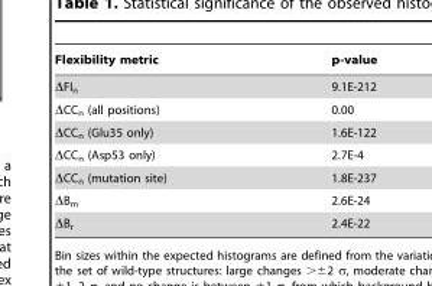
<table><thead><tr><td>Flexibility metric</td><td>p-value</td></tr></thead><tbody><tr><td>ΔFI<sub>n</sub></td><td>9.1E-212</td></tr><tr><td>ΔCC<sub>n</sub> (all positions)</td><td>0.00</td></tr><tr><td>ΔCC<sub>n</sub> (Glu35 only)</td><td>1.6E-122</td></tr><tr><td>ΔCC<sub>n</sub> (Asp53 only)</td><td>2.7E-4</td></tr><tr><td>ΔCC<sub>n</sub> (mutation site)</td><td>1.8E-237</td></tr><tr><td>ΔB<sub>m</sub></td><td>2.6E-24</td></tr><tr><td>ΔB<sub>r</sub></td><td>2.4E-22</td></tr></tbody></table>